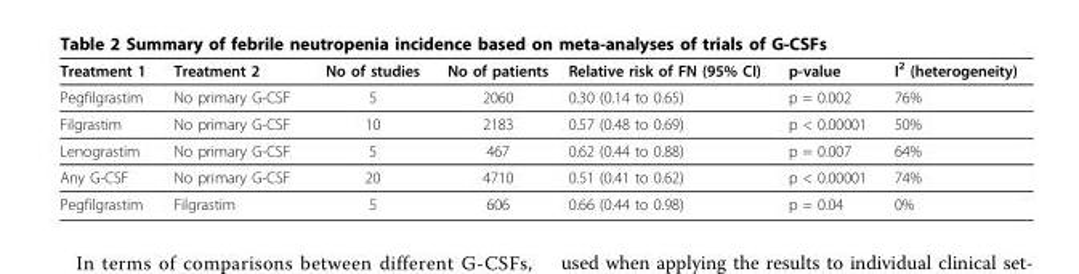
<table><thead><tr><td>Treatment 1</td><td>Treatment 2</td><td>No of studies</td><td>No of patients</td><td>Relative risk of FN (95% CI)</td><td>p-value</td><td>I<sup>2</sup> (heterogeneity)</td></tr></thead><tbody><tr><td>Pegfilgrastim</td><td>No primary G-CSF</td><td>5</td><td>2060</td><td>0.30 (0.14 to 0.65)</td><td>p = 0.002</td><td>76%</td></tr><tr><td>Filgrastim</td><td>No primary G-CSF</td><td>10</td><td>2183</td><td>0.57 (0.48 to 0.69)</td><td>p &lt; 0.00001</td><td>50%</td></tr><tr><td>Lenograstim</td><td>No primary G-CSF</td><td>5</td><td>467</td><td>0.62 (0.44 to 0.88)</td><td>p = 0.007</td><td>64%</td></tr><tr><td>Any G-CSF</td><td>No primary G-CSF</td><td>20</td><td>4710</td><td>0.51 (0.41 to 0.62)</td><td>p &lt; 0.00001</td><td>74%</td></tr><tr><td>Pegfilgrastim</td><td>Filgrastim</td><td>5</td><td>606</td><td>0.66 (0.44 to 0.98)</td><td>p = 0.04</td><td>0%</td></tr></tbody></table>